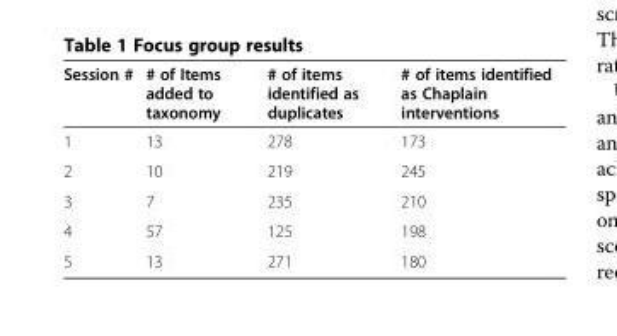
<table><thead><tr><td>Session #</td><td># of Items added to taxonomy</td><td># of items identified as duplicates</td><td># of items identified as Chaplain interventions</td></tr></thead><tbody><tr><td>1</td><td>13</td><td>278</td><td>173</td></tr><tr><td>2</td><td>10</td><td>219</td><td>245</td></tr><tr><td>3</td><td>7</td><td>235</td><td>210</td></tr><tr><td>4</td><td>57</td><td>125</td><td>198</td></tr><tr><td>5</td><td>13</td><td>271</td><td>180</td></tr></tbody></table>